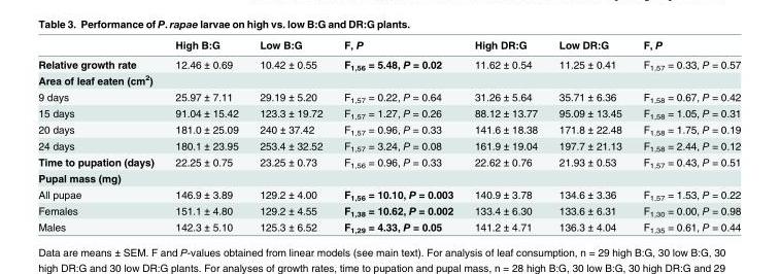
<table><thead><tr><td></td><td>High B:G</td><td>Low B:G</td><td>F, P</td><td>High DR:G</td><td>Low DR:G</td><td>F, P</td></tr></thead><tbody><tr><td>Relative growth rate</td><td>12.46 ± 0.69</td><td>10.42 ± 0.55</td><td>F<sub>1,56</sub> = 5.48, P = 0.02</td><td>11.62 ± 0.54</td><td>11.25 ± 0.41</td><td>F<sub>1,57</sub> = 0.33, P = 0.57</td></tr><tr><td colspan="7">Area of leaf eaten (cm<sup>2</sup>)</td></tr><tr><td>9 days</td><td>25.97 ± 7.11</td><td>29.19 ± 5.20</td><td>F<sub>1,57</sub> = 0.22, P = 0.64</td><td>31.26 ± 5.64</td><td>35.71 ± 6.36</td><td>F<sub>1,58</sub> = 0.67, P = 0.42</td></tr><tr><td>15 days</td><td>91.04 ± 15.42</td><td>123.3 ± 19.72</td><td>F<sub>1,57</sub> = 1.27, P = 0.26</td><td>88.12 ± 13.77</td><td>95.09 ± 13.45</td><td>F<sub>1,58</sub> = 1.05, P = 0.31</td></tr><tr><td>20 days</td><td>181.0 ± 25.09</td><td>240 ± 37.42</td><td>F<sub>1,57</sub> = 0.96, P = 0.33</td><td>141.6 ± 18.38</td><td>171.8 ± 22.48</td><td>F<sub>1,58</sub> = 1.75, P = 0.19</td></tr><tr><td>24 days</td><td>180.1 ± 23.95</td><td>253.4 ± 32.52</td><td>F<sub>1,57</sub> = 3.24, P = 0.08</td><td>161.9 ± 19.04</td><td>197.7 ± 21.13</td><td>F<sub>1,58</sub> = 2.44, P = 0.12</td></tr><tr><td>Time to pupation (days)</td><td>22.25 ± 0.75</td><td>23.25 ± 0.73</td><td>F<sub>1,56</sub> = 0.96, P = 0.33</td><td>22.62 ± 0.76</td><td>21.93 ± 0.53</td><td>F<sub>1,57</sub> = 0.43, P = 0.51</td></tr><tr><td colspan="7">Pupal mass (mg)</td></tr><tr><td>All pupae</td><td>146.9 ± 3.89</td><td>129.2 ± 4.00</td><td>F<sub>1,56</sub> = 10.10, P = 0.003</td><td>140.9 ± 3.78</td><td>134.6 ± 3.36</td><td>F<sub>1,57</sub> = 1.53, P = 0.22</td></tr><tr><td>Females</td><td>151.1 ± 4.80</td><td>129.2 ± 4.55</td><td>F<sub>1,38</sub> = 10.62, P = 0.002</td><td>133.4 ± 6.30</td><td>133.6 ± 6.31</td><td>F<sub>1,30</sub> = 0.00, P = 0.98</td></tr><tr><td>Males</td><td>142.3 ± 5.10</td><td>125.3 ± 6.52</td><td>F<sub>1,29</sub> = 4.33, P = 0.05</td><td>141.2 ± 4.71</td><td>136.3 ± 4.04</td><td>F<sub>1,35</sub> = 0.61, P = 0.44</td></tr></tbody></table>